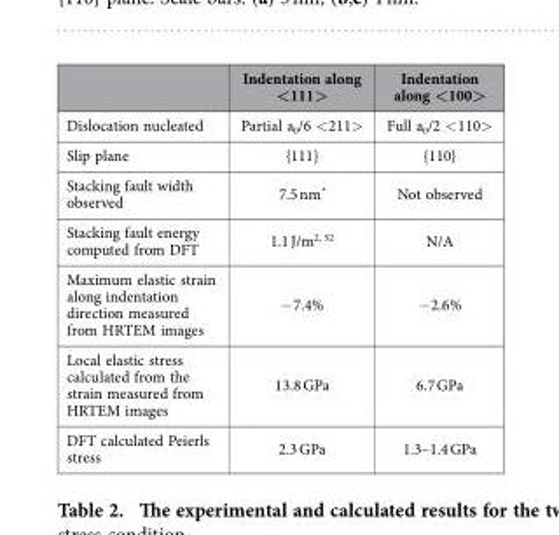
<table><thead><tr><td></td><td>Indentation along &lt;111&gt;</td><td>Indentation along &lt;100&gt;</td></tr></thead><tbody><tr><td>Dislocation nucleated</td><td>Partial a<sub>0</sub>/6 &lt; 211&gt;</td><td>Full a<sub>0</sub>/2 &lt; 110&gt;</td></tr><tr><td>Slip plane</td><td>{111}</td><td>{110}</td></tr><tr><td>Stacking fault width observed</td><td>7.5 nm*</td><td>Not observed</td></tr><tr><td>Stacking fault energy computed from DFT</td><td>1.1 J/m<sup>2, 52</sup></td><td>N/A</td></tr><tr><td>Maximum elastic strain along indentation direction measured from HRTEM images</td><td>− 7.4%</td><td>− 2.6%</td></tr><tr><td>Local elastic stress calculated from the strain measured from HRTEM images</td><td>13.8 GPa</td><td>6.7 GPa</td></tr><tr><td>DFT calculated Peierls stress</td><td>2.3 GPa</td><td>1.3–1.4 GPa</td></tr></tbody></table>